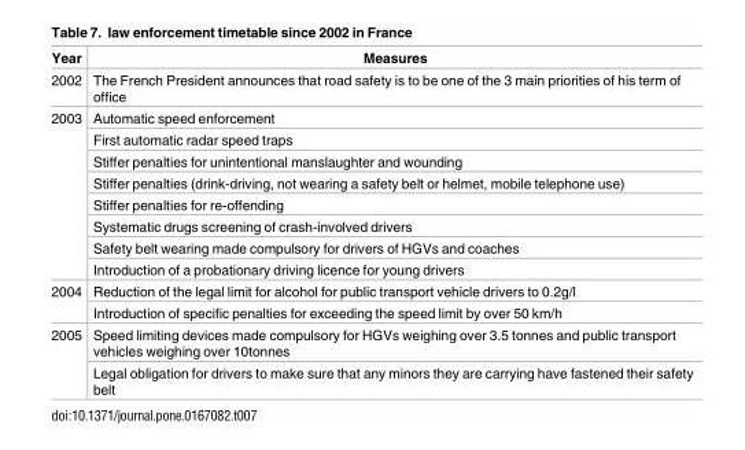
<table><thead><tr><td>Year</td><td>Measures</td></tr></thead><tbody><tr><td>2002</td><td>The French President announces that road safety is to be one of the 3 main priorities of his term of office</td></tr><tr><td rowspan="8">2003</td><td>Automatic speed enforcement</td></tr><tr><td>First automatic radar speed traps</td></tr><tr><td>Stiffer penalties for unintentional manslaughter and wounding</td></tr><tr><td>Stiffer penalties (drink-driving, not wearing a safety belt or helmet, mobile telephone use)</td></tr><tr><td>Stiffer penalties for re-offending</td></tr><tr><td>Systematic drugs screening of crash-involved drivers</td></tr><tr><td>Safety belt wearing made compulsory for drivers of HGVs and coaches</td></tr><tr><td>Introduction of a probationary driving licence for young drivers</td></tr><tr><td rowspan="2">2004</td><td>Reduction of the legal limit for alcohol for public transport vehicle drivers to 0.2g/l</td></tr><tr><td>Introduction of specific penalties for exceeding the speed limit by over 50 km/h</td></tr><tr><td rowspan="2">2005</td><td>Speed limiting devices made compulsory for HGVs weighing over 3.5 tonnes and public transport vehicles weighing over 10tonnes</td></tr><tr><td>Legal obligation for drivers to make sure that any minors they are carrying have fastened their safety belt</td></tr></tbody></table>